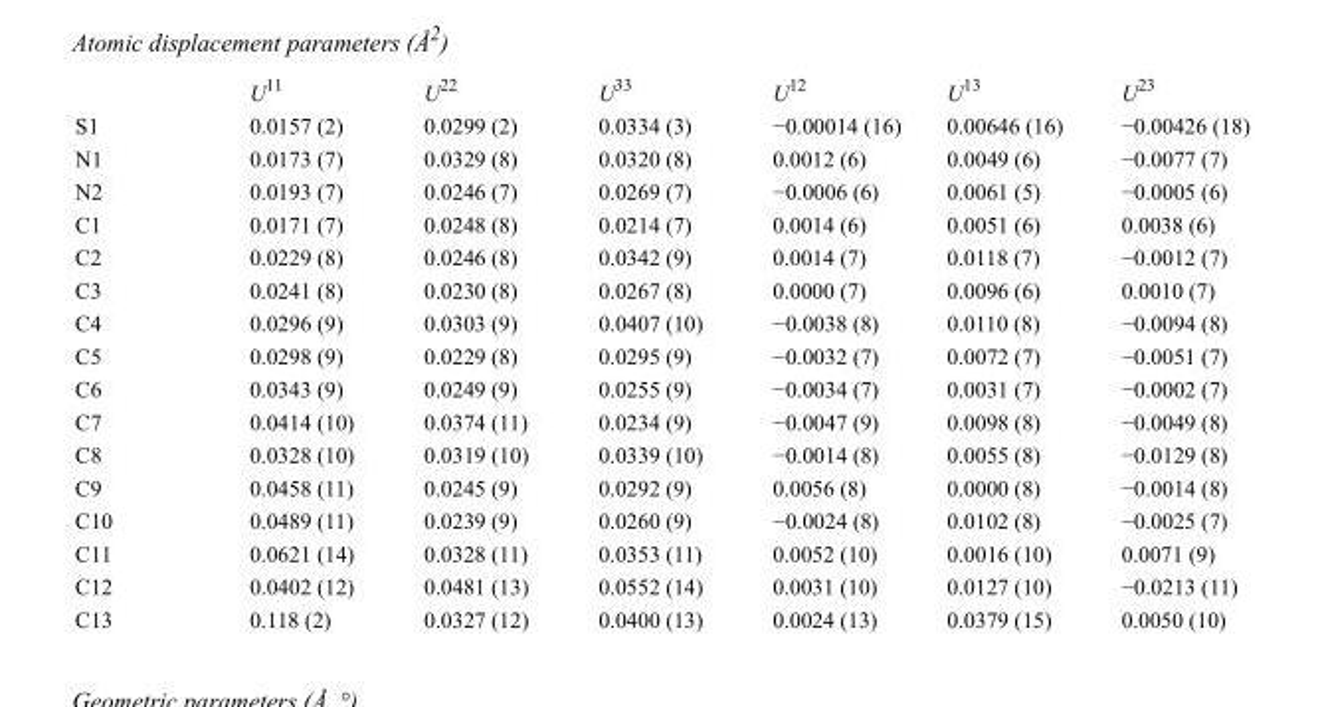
<table><thead><tr><td></td><td>U<sup>11</sup></td><td>U<sup>22</sup></td><td>U<sup>33</sup></td><td>U<sup>12</sup></td><td>U<sup>13</sup></td><td>U<sup>23</sup></td></tr></thead><tbody><tr><td>S1</td><td>0.0157 (2)</td><td>0.0299 (2)</td><td>0.0334 (3)</td><td>−0.00014 (16)</td><td>0.00646 (16)</td><td>−0.00426 (18)</td></tr><tr><td>N1</td><td>0.0173 (7)</td><td>0.0329 (8)</td><td>0.0320 (8)</td><td>0.0012 (6)</td><td>0.0049 (6)</td><td>−0.0077 (7)</td></tr><tr><td>N2</td><td>0.0193 (7)</td><td>0.0246 (7)</td><td>0.0269 (7)</td><td>−0.0006 (6)</td><td>0.0061 (5)</td><td>−0.0005 (6)</td></tr><tr><td>C1</td><td>0.0171 (7)</td><td>0.0248 (8)</td><td>0.0214 (7)</td><td>0.0014 (6)</td><td>0.0051 (6)</td><td>0.0038 (6)</td></tr><tr><td>C2</td><td>0.0229 (8)</td><td>0.0246 (8)</td><td>0.0342 (9)</td><td>0.0014 (7)</td><td>0.0118 (7)</td><td>−0.0012 (7)</td></tr><tr><td>C3</td><td>0.0241 (8)</td><td>0.0230 (8)</td><td>0.0267 (8)</td><td>0.0000 (7)</td><td>0.0096 (6)</td><td>0.0010 (7)</td></tr><tr><td>C4</td><td>0.0296 (9)</td><td>0.0303 (9)</td><td>0.0407 (10)</td><td>−0.0038 (8)</td><td>0.0110 (8)</td><td>−0.0094 (8)</td></tr><tr><td>C5</td><td>0.0298 (9)</td><td>0.0229 (8)</td><td>0.0295 (9)</td><td>−0.0032 (7)</td><td>0.0072 (7)</td><td>−0.0051 (7)</td></tr><tr><td>C6</td><td>0.0343 (9)</td><td>0.0249 (9)</td><td>0.0255 (9)</td><td>−0.0034 (7)</td><td>0.0031 (7)</td><td>−0.0002 (7)</td></tr><tr><td>C7</td><td>0.0414 (10)</td><td>0.0374 (11)</td><td>0.0234 (9)</td><td>−0.0047 (9)</td><td>0.0098 (8)</td><td>−0.0049 (8)</td></tr><tr><td>C8</td><td>0.0328 (10)</td><td>0.0319 (10)</td><td>0.0339 (10)</td><td>−0.0014 (8)</td><td>0.0055 (8)</td><td>−0.0129 (8)</td></tr><tr><td>C9</td><td>0.0458 (11)</td><td>0.0245 (9)</td><td>0.0292 (9)</td><td>0.0056 (8)</td><td>0.0000 (8)</td><td>−0.0014 (8)</td></tr><tr><td>C10</td><td>0.0489 (11)</td><td>0.0239 (9)</td><td>0.0260 (9)</td><td>−0.0024 (8)</td><td>0.0102 (8)</td><td>−0.0025 (7)</td></tr><tr><td>C11</td><td>0.0621 (14)</td><td>0.0328 (11)</td><td>0.0353 (11)</td><td>0.0052 (10)</td><td>0.0016 (10)</td><td>0.0071 (9)</td></tr><tr><td>C12</td><td>0.0402 (12)</td><td>0.0481 (13)</td><td>0.0552 (14)</td><td>0.0031 (10)</td><td>0.0127 (10)</td><td>−0.0213 (11)</td></tr><tr><td>C13</td><td>0.118 (2)</td><td>0.0327 (12)</td><td>0.0400 (13)</td><td>0.0024 (13)</td><td>0.0379 (15)</td><td>0.0050 (10)</td></tr></tbody></table>